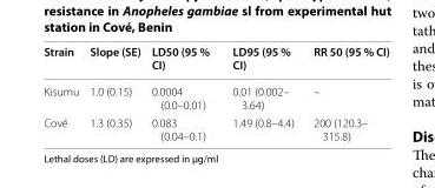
<table><thead><tr><td>Strain</td><td>Slope (SE)</td><td>LD50 (95 % CI)</td><td>LD95 (95 % CI)</td><td>RR 50 (95 % CI)</td></tr></thead><tbody><tr><td>Kisumu</td><td>1.0 (0.15)</td><td>0.0004 (0.0–0.01)</td><td>0.01 (0.002– 3.64)</td><td>–</td></tr><tr><td>Cové</td><td>1.3 (0.35)</td><td>0.083 (0.04–0.1)</td><td>1.49 (0.8–4.4)</td><td>200 (120.3– 315.8)</td></tr></tbody></table>